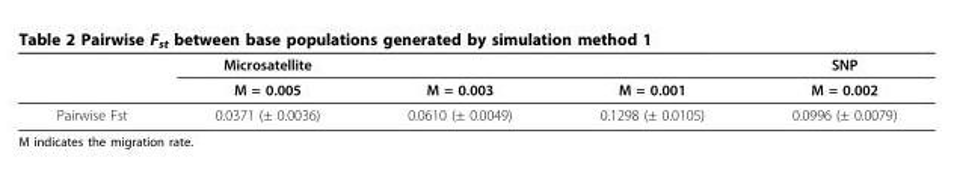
<table><thead><tr><td rowspan="2"></td><td rowspan="2">Microsatellite M = 0.005</td><td rowspan="2">M = 0.003</td><td rowspan="2">M = 0.001</td><td rowspan="2">SNP M = 0.002</td></tr><tr></tr></thead><tbody><tr><td>Pairwise Fst</td><td>0.0371 (± 0.0036)</td><td>0.0610 (± 0.0049)</td><td>0.1298 (± 0.0105)</td><td>0.0996 (± 0.0079)</td></tr></tbody></table>